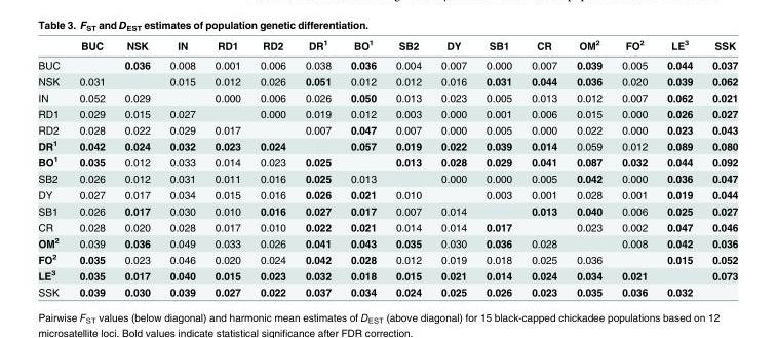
<table><thead><tr><td></td><td>BUC</td><td>NSK</td><td>IN</td><td>RD1</td><td>RD2</td><td>DR<sup>1</sup></td><td>BO<sup>1</sup></td><td>SB2</td><td>DY</td><td>SB1</td><td>CR</td><td>OM<sup>2</sup></td><td>FO<sup>2</sup></td><td>LE<sup>3</sup></td><td>SSK</td></tr></thead><tbody><tr><td>BUC</td><td></td><td>0.036</td><td>0.008</td><td>0.001</td><td>0.006</td><td>0.038</td><td>0.036</td><td>0.004</td><td>0.007</td><td>0.000</td><td>0.007</td><td>0.039</td><td>0.005</td><td>0.044</td><td>0.037</td></tr><tr><td>NSK</td><td>0.031</td><td></td><td>0.015</td><td>0.012</td><td>0.026</td><td>0.051</td><td>0.012</td><td>0.012</td><td>0.016</td><td>0.031</td><td>0.044</td><td>0.036</td><td>0.020</td><td>0.039</td><td>0.062</td></tr><tr><td>IN</td><td>0.052</td><td>0.029</td><td></td><td>0.000</td><td>0.006</td><td>0.026</td><td>0.050</td><td>0.013</td><td>0.023</td><td>0.005</td><td>0.013</td><td>0.012</td><td>0.007</td><td>0.062</td><td>0.021</td></tr><tr><td>RD1</td><td>0.029</td><td>0.015</td><td>0.027</td><td></td><td>0.000</td><td>0.019</td><td>0.012</td><td>0.003</td><td>0.000</td><td>0.001</td><td>0.006</td><td>0.015</td><td>0.000</td><td>0.026</td><td>0.027</td></tr><tr><td>RD2</td><td>0.028</td><td>0.022</td><td>0.029</td><td>0.017</td><td></td><td>0.007</td><td>0.047</td><td>0.007</td><td>0.000</td><td>0.005</td><td>0.000</td><td>0.022</td><td>0.000</td><td>0.023</td><td>0.043</td></tr><tr><td>DR<sup>1</sup></td><td>0.042</td><td>0.024</td><td>0.032</td><td>0.023</td><td>0.024</td><td></td><td>0.057</td><td>0.019</td><td>0.022</td><td>0.039</td><td>0.014</td><td>0.059</td><td>0.012</td><td>0.089</td><td>0.080</td></tr><tr><td>BO<sup>1</sup></td><td>0.035</td><td>0.012</td><td>0.033</td><td>0.014</td><td>0.023</td><td>0.025</td><td></td><td>0.013</td><td>0.028</td><td>0.029</td><td>0.041</td><td>0.087</td><td>0.032</td><td>0.044</td><td>0.092</td></tr><tr><td>SB2</td><td>0.026</td><td>0.012</td><td>0.031</td><td>0.011</td><td>0.016</td><td>0.025</td><td>0.013</td><td></td><td>0.000</td><td>0.000</td><td>0.005</td><td>0.042</td><td>0.000</td><td>0.036</td><td>0.047</td></tr><tr><td>DY</td><td>0.027</td><td>0.017</td><td>0.034</td><td>0.015</td><td>0.016</td><td>0.026</td><td>0.021</td><td>0.010</td><td></td><td>0.003</td><td>0.001</td><td>0.028</td><td>0.001</td><td>0.019</td><td>0.044</td></tr><tr><td>SB1</td><td>0.026</td><td>0.017</td><td>0.030</td><td>0.010</td><td>0.016</td><td>0.027</td><td>0.017</td><td>0.007</td><td>0.014</td><td></td><td>0.013</td><td>0.040</td><td>0.006</td><td>0.025</td><td>0.027</td></tr><tr><td>CR</td><td>0.028</td><td>0.020</td><td>0.028</td><td>0.017</td><td>0.010</td><td>0.022</td><td>0.021</td><td>0.014</td><td>0.014</td><td>0.017</td><td></td><td>0.023</td><td>0.002</td><td>0.047</td><td>0.046</td></tr><tr><td>OM<sup>2</sup></td><td>0.039</td><td>0.036</td><td>0.049</td><td>0.033</td><td>0.026</td><td>0.041</td><td>0.043</td><td>0.035</td><td>0.030</td><td>0.036</td><td>0.028</td><td></td><td>0.008</td><td>0.042</td><td>0.036</td></tr><tr><td>FO<sup>2</sup></td><td>0.035</td><td>0.023</td><td>0.046</td><td>0.020</td><td>0.024</td><td>0.042</td><td>0.028</td><td>0.012</td><td>0.019</td><td>0.018</td><td>0.025</td><td>0.036</td><td></td><td>0.015</td><td>0.052</td></tr><tr><td>LE<sup>3</sup></td><td>0.035</td><td>0.017</td><td>0.040</td><td>0.015</td><td>0.023</td><td>0.032</td><td>0.018</td><td>0.015</td><td>0.021</td><td>0.014</td><td>0.024</td><td>0.034</td><td>0.021</td><td></td><td>0.073</td></tr><tr><td>SSK</td><td>0.039</td><td>0.030</td><td>0.039</td><td>0.027</td><td>0.022</td><td>0.037</td><td>0.034</td><td>0.024</td><td>0.025</td><td>0.026</td><td>0.023</td><td>0.035</td><td>0.036</td><td>0.032</td><td></td></tr></tbody></table>